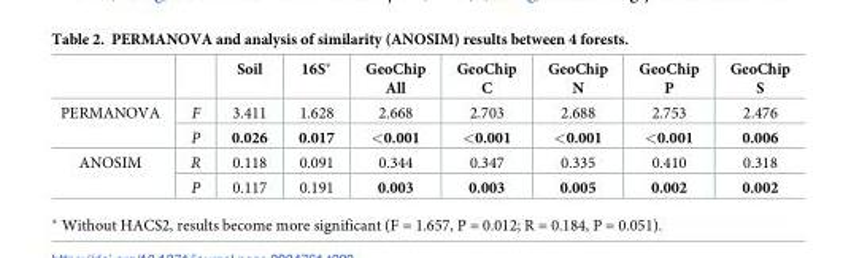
<table><thead><tr><td></td><td></td><td>Soil</td><td>16S*</td><td>GeoChip All</td><td>GeoChip C</td><td>GeoChip N</td><td>GeoChip P</td><td>GeoChip S</td></tr></thead><tbody><tr><td rowspan="2">PERMANOVA</td><td>F</td><td>3.411</td><td>1.628</td><td>2.668</td><td>2.703</td><td>2.688</td><td>2.753</td><td>2.476</td></tr><tr><td>P</td><td>0.026</td><td>0.017</td><td>&lt;0.001</td><td>&lt;0.001</td><td>&lt;0.001</td><td>&lt;0.001</td><td>0.006</td></tr><tr><td rowspan="2">ANOSIM</td><td>R</td><td>0.118</td><td>0.091</td><td>0.344</td><td>0.347</td><td>0.335</td><td>0.410</td><td>0.318</td></tr><tr><td>P</td><td>0.117</td><td>0.191</td><td>0.003</td><td>0.003</td><td>0.005</td><td>0.002</td><td>0.002</td></tr></tbody></table>